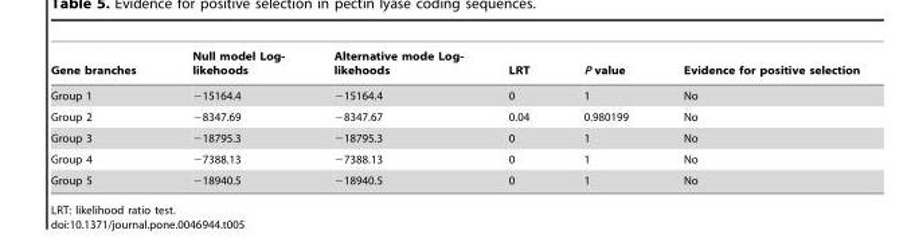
<table><thead><tr><td>Gene branches</td><td>Null model Log- likehoods</td><td>Alternative mode Log- likehoods</td><td>LRT</td><td>P value</td><td>Evidence for positive selection</td></tr></thead><tbody><tr><td>Group 1</td><td>−15164.4</td><td>−15164.4</td><td>0</td><td>1</td><td>No</td></tr><tr><td>Group 2</td><td>−8347.69</td><td>−8347.67</td><td>0.04</td><td>0.980199</td><td>No</td></tr><tr><td>Group 3</td><td>−18795.3</td><td>−18795.3</td><td>0</td><td>1</td><td>No</td></tr><tr><td>Group 4</td><td>−7388.13</td><td>−7388.13</td><td>0</td><td>1</td><td>No</td></tr><tr><td>Group 5</td><td>−18940.5</td><td>−18940.5</td><td>0</td><td>1</td><td>No</td></tr></tbody></table>